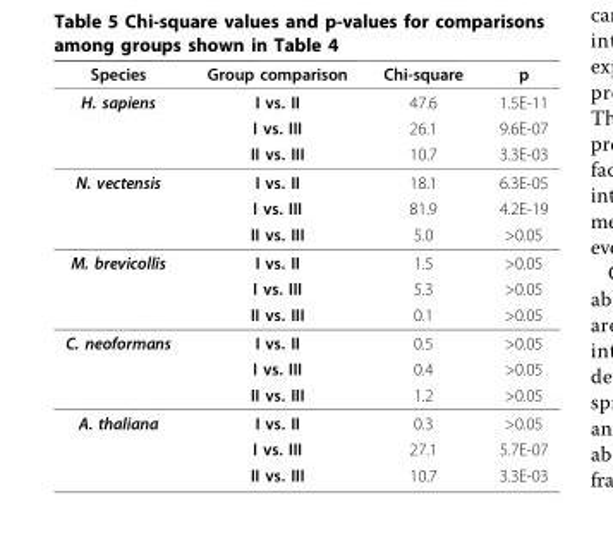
<table><thead><tr><td>Species</td><td>Group comparison</td><td>Chi-square</td><td>p</td></tr></thead><tbody><tr><td rowspan="3">H. sapiens</td><td>I vs. II</td><td>47.6</td><td>1.5E-11</td></tr><tr><td>I vs. III</td><td>26.1</td><td>9.6E-07</td></tr><tr><td>II vs. III</td><td>10.7</td><td>3.3E-03</td></tr><tr><td rowspan="3">N. vectensis</td><td>I vs. II</td><td>18.1</td><td>6.3E-05</td></tr><tr><td>I vs. III</td><td>81.9</td><td>4.2E-19</td></tr><tr><td>II vs. III</td><td>5.0</td><td>&gt;0.05</td></tr><tr><td rowspan="3">M. brevicollis</td><td>I vs. II</td><td>1.5</td><td>&gt;0.05</td></tr><tr><td>I vs. III</td><td>5.3</td><td>&gt;0.05</td></tr><tr><td>II vs. III</td><td>0.1</td><td>&gt;0.05</td></tr><tr><td rowspan="3">C. neoformans</td><td>I vs. II</td><td>0.5</td><td>&gt;0.05</td></tr><tr><td>I vs. III</td><td>0.4</td><td>&gt;0.05</td></tr><tr><td>II vs. III</td><td>1.2</td><td>&gt;0.05</td></tr><tr><td rowspan="3">A. thaliana</td><td>I vs. II</td><td>0.3</td><td>&gt;0.05</td></tr><tr><td>I vs. III</td><td>27.1</td><td>5.7E-07</td></tr><tr><td>II vs. III</td><td>10.7</td><td>3.3E-03</td></tr></tbody></table>